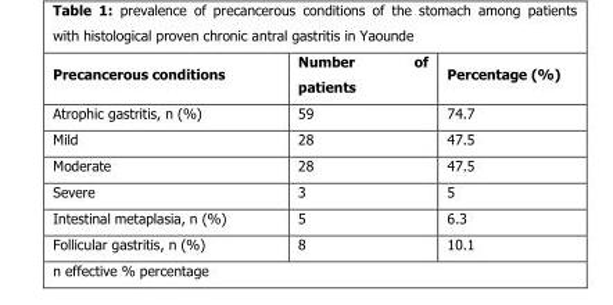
<table><thead><tr><td>Precancerous conditions</td><td>Number of patients</td><td>Percentage (%)</td></tr></thead><tbody><tr><td>Atrophic gastritis, n (%)</td><td>59</td><td>74.7</td></tr><tr><td>Mild</td><td>28</td><td>47.5</td></tr><tr><td>Moderate</td><td>28</td><td>47.5</td></tr><tr><td>Severe</td><td>3</td><td>5</td></tr><tr><td>Intestinal metaplasia, n (%)</td><td>5</td><td>6.3</td></tr><tr><td>Follicular gastritis, n (%)</td><td>8</td><td>10.1</td></tr></tbody></table>